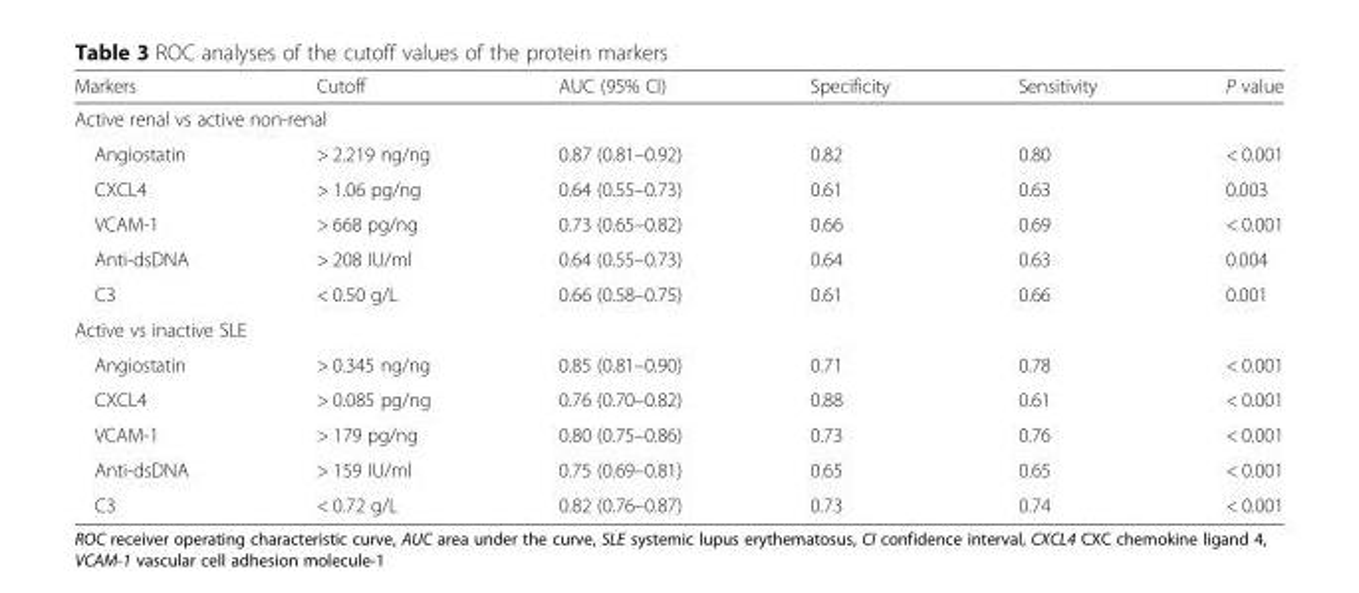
<table><thead><tr><td>Markers</td><td>Cutoff</td><td>AUC (95% CI)</td><td>Specificity</td><td>Sensitivity</td><td>P value</td></tr></thead><tbody><tr><td colspan="6">Active renal vs active non-renal</td></tr><tr><td>Angiostatin</td><td>&gt; 2.219 ng/ng</td><td>0.87 (0.81–0.92)</td><td>0.82</td><td>0.80</td><td>&lt; 0.001</td></tr><tr><td>CXCL4</td><td>&gt; 1.06 pg/ng</td><td>0.64 (0.55–0.73)</td><td>0.61</td><td>0.63</td><td>0.003</td></tr><tr><td>VCAM-1</td><td>&gt; 668 pg/ng</td><td>0.73 (0.65–0.82)</td><td>0.66</td><td>0.69</td><td>&lt; 0.001</td></tr><tr><td>Anti-dsDNA</td><td>&gt; 208 IU/ml</td><td>0.64 (0.55–0.73)</td><td>0.64</td><td>0.63</td><td>0.004</td></tr><tr><td>C3</td><td>&lt; 0.50 g/L</td><td>0.66 (0.58–0.75)</td><td>0.61</td><td>0.66</td><td>0.001</td></tr><tr><td colspan="6">Active vs inactive SLE</td></tr><tr><td>Angiostatin</td><td>&gt; 0.345 ng/ng</td><td>0.85 (0.81–0.90)</td><td>0.71</td><td>0.78</td><td>&lt; 0.001</td></tr><tr><td>CXCL4</td><td>&gt; 0.085 pg/ng</td><td>0.76 (0.70–0.82)</td><td>0.88</td><td>0.61</td><td>&lt; 0.001</td></tr><tr><td>VCAM-1</td><td>&gt; 179 pg/ng</td><td>0.80 (0.75–0.86)</td><td>0.73</td><td>0.76</td><td>&lt; 0.001</td></tr><tr><td>Anti-dsDNA</td><td>&gt; 159 IU/ml</td><td>0.75 (0.69–0.81)</td><td>0.65</td><td>0.65</td><td>&lt; 0.001</td></tr><tr><td>C3</td><td>&lt; 0.72 g/L</td><td>0.82 (0.76–0.87)</td><td>0.73</td><td>0.74</td><td>&lt; 0.001</td></tr></tbody></table>